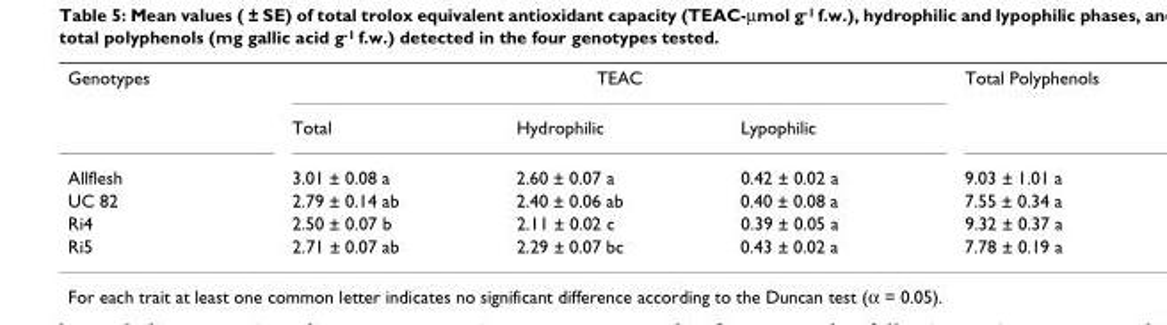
<table><tbody><tr><td rowspan="2">Genotypes</td><td colspan="3">TEAC</td><td>Total Polyphenols</td></tr><tr><td>Total</td><td>Hydrophilic</td><td>Lypophilic</td><td></td></tr><tr><td>Allflesh</td><td>3.01 ± 0.08 a</td><td>2.60 ± 0.07 a</td><td>0.42 ± 0.02 a</td><td>9.03 ± 1.01 a</td></tr><tr><td>UC 82</td><td>2.79 ± 0.14 ab</td><td>2.40 ± 0.06 ab</td><td>0.40 ± 0.08 a</td><td>7.55 ± 0.34 a</td></tr><tr><td>Ri4</td><td>2.50 ± 0.07 b</td><td>2.11 ± 0.02 c</td><td>0.39 ± 0.05 a</td><td>9.32 ± 0.37 a</td></tr><tr><td>Ri5</td><td>2.71 ± 0.07 ab</td><td>2.29 ± 0.07 bc</td><td>0.43 ± 0.02 a</td><td>7.78 ± 0.19 a</td></tr></tbody></table>